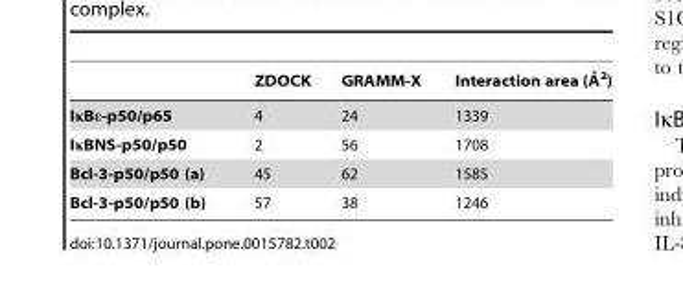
<table><thead><tr><td></td><td>ZDOCK</td><td>GRAMM-X</td><td>Interaction area (A˚ 2)</td></tr></thead><tbody><tr><td>IκBε-p50/p65</td><td>4</td><td>24</td><td>1339</td></tr><tr><td>IκBNS-p50/p50</td><td>2</td><td>56</td><td>1708</td></tr><tr><td>Bcl-3-p50/p50 (a)</td><td>45</td><td>62</td><td>1585</td></tr><tr><td>Bcl-3-p50/p50 (b)</td><td>57</td><td>38</td><td>1246</td></tr></tbody></table>